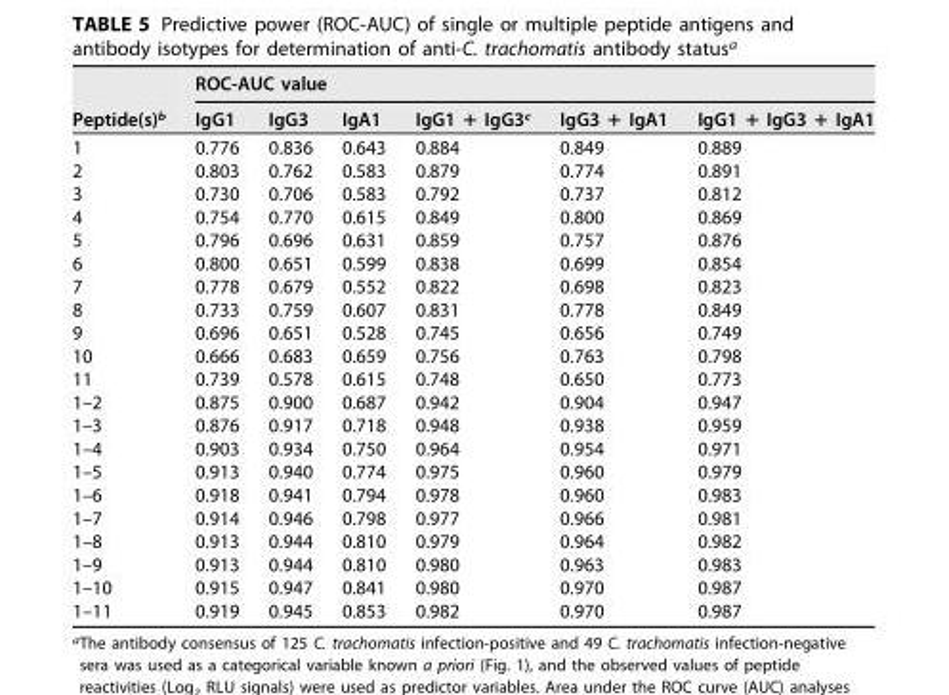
<table><thead><tr><td rowspan="2">Peptide(s)<sup>b</sup></td><td colspan="6">ROC-AUC value</td></tr><tr><td>IgG1</td><td>IgG3</td><td>IgA1</td><td>IgG1 + IgG3<sup>c</sup></td><td>IgG3 + IgA1</td><td>IgG1 + IgG3 + IgA1</td></tr></thead><tbody><tr><td>1</td><td>0.776</td><td>0.836</td><td>0.643</td><td>0.884</td><td>0.849</td><td>0.889</td></tr><tr><td>2</td><td>0.803</td><td>0.762</td><td>0.583</td><td>0.879</td><td>0.774</td><td>0.891</td></tr><tr><td>3</td><td>0.730</td><td>0.706</td><td>0.583</td><td>0.792</td><td>0.737</td><td>0.812</td></tr><tr><td>4</td><td>0.754</td><td>0.770</td><td>0.615</td><td>0.849</td><td>0.800</td><td>0.869</td></tr><tr><td>5</td><td>0.796</td><td>0.696</td><td>0.631</td><td>0.859</td><td>0.757</td><td>0.876</td></tr><tr><td>6</td><td>0.800</td><td>0.651</td><td>0.599</td><td>0.838</td><td>0.699</td><td>0.854</td></tr><tr><td>7</td><td>0.778</td><td>0.679</td><td>0.552</td><td>0.822</td><td>0.698</td><td>0.823</td></tr><tr><td>8</td><td>0.733</td><td>0.759</td><td>0.607</td><td>0.831</td><td>0.778</td><td>0.849</td></tr><tr><td>9</td><td>0.696</td><td>0.651</td><td>0.528</td><td>0.745</td><td>0.656</td><td>0.749</td></tr><tr><td>10</td><td>0.666</td><td>0.683</td><td>0.659</td><td>0.756</td><td>0.763</td><td>0.798</td></tr><tr><td>11</td><td>0.739</td><td>0.578</td><td>0.615</td><td>0.748</td><td>0.650</td><td>0.773</td></tr><tr><td>1–2</td><td>0.875</td><td>0.900</td><td>0.687</td><td>0.942</td><td>0.904</td><td>0.947</td></tr><tr><td>1–3</td><td>0.876</td><td>0.917</td><td>0.718</td><td>0.948</td><td>0.938</td><td>0.959</td></tr><tr><td>1–4</td><td>0.903</td><td>0.934</td><td>0.750</td><td>0.964</td><td>0.954</td><td>0.971</td></tr><tr><td>1–5</td><td>0.913</td><td>0.940</td><td>0.774</td><td>0.975</td><td>0.960</td><td>0.979</td></tr><tr><td>1–6</td><td>0.918</td><td>0.941</td><td>0.794</td><td>0.978</td><td>0.960</td><td>0.983</td></tr><tr><td>1–7</td><td>0.914</td><td>0.946</td><td>0.798</td><td>0.977</td><td>0.966</td><td>0.981</td></tr><tr><td>1–8</td><td>0.913</td><td>0.944</td><td>0.810</td><td>0.979</td><td>0.964</td><td>0.982</td></tr><tr><td>1–9</td><td>0.913</td><td>0.944</td><td>0.810</td><td>0.980</td><td>0.963</td><td>0.983</td></tr><tr><td>1–10</td><td>0.915</td><td>0.947</td><td>0.841</td><td>0.980</td><td>0.970</td><td>0.987</td></tr><tr><td>1–11</td><td>0.919</td><td>0.945</td><td>0.853</td><td>0.982</td><td>0.970</td><td>0.987</td></tr></tbody></table>